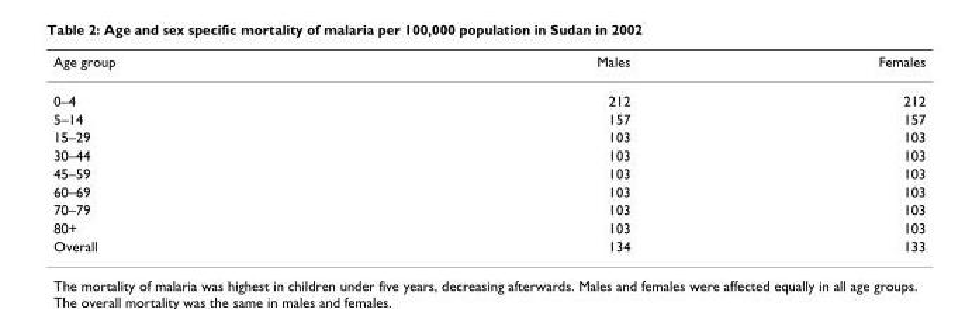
<table><thead><tr><td>Age group</td><td>Males</td><td>Females</td></tr></thead><tbody><tr><td>0–4</td><td>212</td><td>212</td></tr><tr><td>5–14</td><td>157</td><td>157</td></tr><tr><td>15–29</td><td>103</td><td>103</td></tr><tr><td>30–44</td><td>103</td><td>103</td></tr><tr><td>45–59</td><td>103</td><td>103</td></tr><tr><td>60–69</td><td>103</td><td>103</td></tr><tr><td>70–79</td><td>103</td><td>103</td></tr><tr><td>80+</td><td>103</td><td>103</td></tr><tr><td>Overall</td><td>134</td><td>133</td></tr></tbody></table>